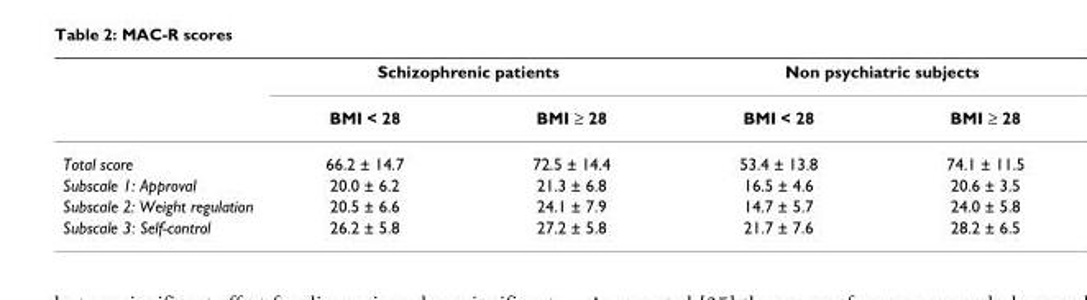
<table><thead><tr><td rowspan="2"></td><td colspan="2">Schizophrenic patients</td><td colspan="2">Non psychiatric subjects</td></tr><tr><td>BMI &lt; 28</td><td>BMI ≥ 28</td><td>BMI &lt; 28</td><td>BMI ≥ 28</td></tr></thead><tbody><tr><td>Total score</td><td>66.2 ± 14.7</td><td>72.5 ± 14.4</td><td>53.4 ± 13.8</td><td>74.1 ± 11.5</td></tr><tr><td>Subscale 1: Approval</td><td>20.0 ± 6.2</td><td>21.3 ± 6.8</td><td>16.5 ± 4.6</td><td>20.6 ± 3.5</td></tr><tr><td>Subscale 2: Weight regulation</td><td>20.5 ± 6.6</td><td>24.1 ± 7.9</td><td>14.7 ± 5.7</td><td>24.0 ± 5.8</td></tr><tr><td>Subscale 3: Self-control</td><td>26.2 ± 5.8</td><td>27.2 ± 5.8</td><td>21.7 ± 7.6</td><td>28.2 ± 6.5</td></tr></tbody></table>